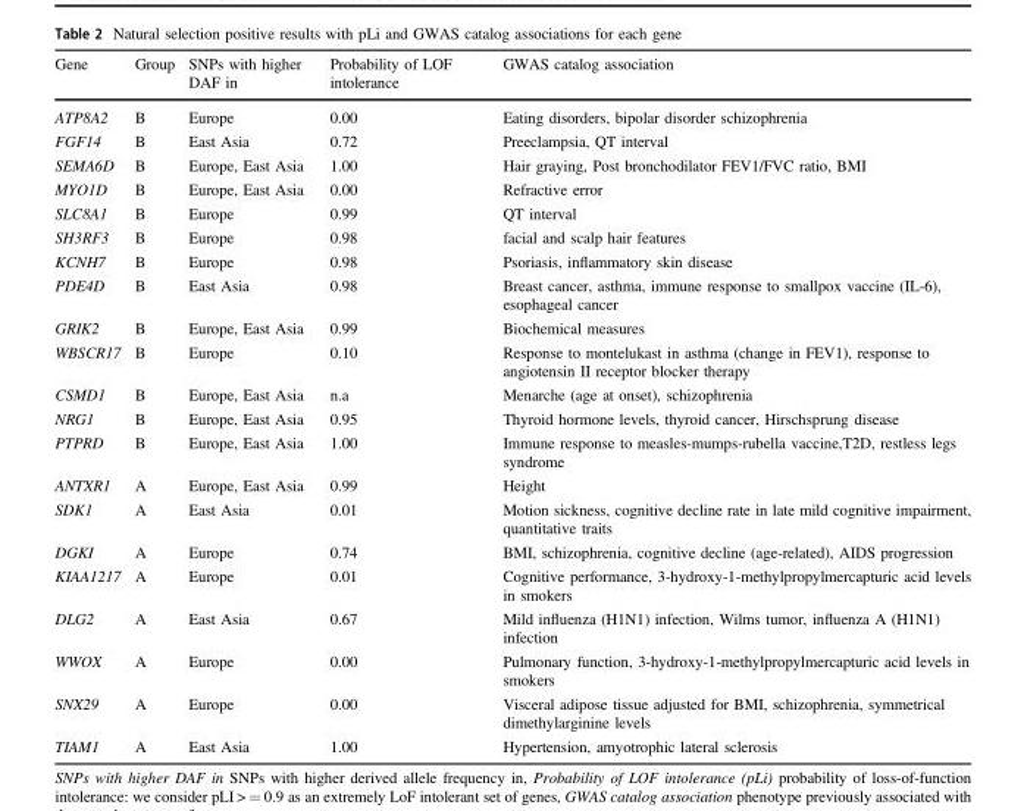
<table><thead><tr><td>Gene</td><td>Group</td><td>SNPs with higher DAF in</td><td>Probability of LOF intolerance</td><td>GWAS catalog association</td></tr></thead><tbody><tr><td>ATP8A2</td><td>B</td><td>Europe</td><td>0.00</td><td>Eating disorders, bipolar disorder schizophrenia</td></tr><tr><td>FGF14</td><td>B</td><td>East Asia</td><td>0.72</td><td>Preeclampsia, QT interval</td></tr><tr><td>SEMA6D</td><td>B</td><td>Europe, East Asia</td><td>1.00</td><td>Hair graying, Post bronchodilator FEV1/FVC ratio, BMI</td></tr><tr><td>MYO1D</td><td>B</td><td>Europe, East Asia</td><td>0.00</td><td>Refractive error</td></tr><tr><td>SLC8A1</td><td>B</td><td>Europe</td><td>0.99</td><td>QT interval</td></tr><tr><td>SH3RF3</td><td>B</td><td>Europe</td><td>0.98</td><td>facial and scalp hair features</td></tr><tr><td>KCNH7</td><td>B</td><td>Europe</td><td>0.98</td><td>Psoriasis, inflammatory skin disease</td></tr><tr><td>PDE4D</td><td>B</td><td>East Asia</td><td>0.98</td><td>Breast cancer, asthma, immune response to smallpox vaccine (IL-6), esophageal cancer</td></tr><tr><td>GRIK2</td><td>B</td><td>Europe, East Asia</td><td>0.99</td><td>Biochemical measures</td></tr><tr><td>WBSCR17</td><td>B</td><td>Europe</td><td>0.10</td><td>Response to montelukast in asthma (change in FEV1), response to angiotensin II receptor blocker therapy</td></tr><tr><td>CSMD1</td><td>B</td><td>Europe, East Asia</td><td>n.a</td><td>Menarche (age at onset), schizophrenia</td></tr><tr><td>NRG1</td><td>B</td><td>Europe, East Asia</td><td>0.95</td><td>Thyroid hormone levels, thyroid cancer, Hirschsprung disease</td></tr><tr><td>PTPRD</td><td>B</td><td>Europe, East Asia</td><td>1.00</td><td>Immune response to measles-mumps-rubella vaccine,T2D, restless legs syndrome</td></tr><tr><td>ANTXR1</td><td>A</td><td>Europe, East Asia</td><td>0.99</td><td>Height</td></tr><tr><td>SDK1</td><td>A</td><td>East Asia</td><td>0.01</td><td>Motion sickness, cognitive decline rate in late mild cognitive impairment, quantitative traits</td></tr><tr><td>DGKI</td><td>A</td><td>Europe</td><td>0.74</td><td>BMI, schizophrenia, cognitive decline (age-related), AIDS progression</td></tr><tr><td>KIAA1217</td><td>A</td><td>Europe</td><td>0.01</td><td>Cognitive performance, 3-hydroxy-1-methylpropylmercapturic acid levels in smokers</td></tr><tr><td>DLG2</td><td>A</td><td>East Asia</td><td>0.67</td><td>Mild influenza (H1N1) infection, Wilms tumor, influenza A (H1N1) infection</td></tr><tr><td>WWOX</td><td>A</td><td>Europe</td><td>0.00</td><td>Pulmonary function, 3-hydroxy-1-methylpropylmercapturic acid levels in smokers</td></tr><tr><td>SNX29</td><td>A</td><td>Europe</td><td>0.00</td><td>Visceral adipose tissue adjusted for BMI, schizophrenia, symmetrical dimethylarginine levels</td></tr><tr><td>TIAM1</td><td>A</td><td>East Asia</td><td>1.00</td><td>Hypertension, amyotrophic lateral sclerosis</td></tr></tbody></table>